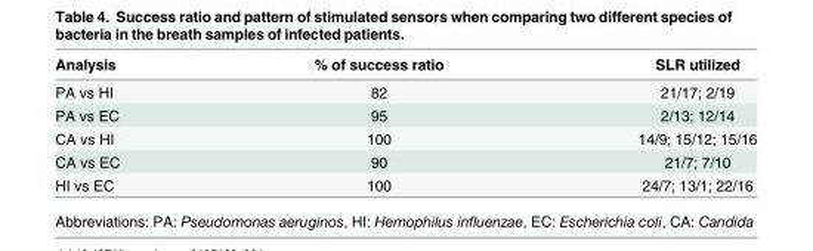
<table><thead><tr><td>Analysis</td><td>% of success ratio</td><td>SLR utilized</td></tr></thead><tbody><tr><td>PA vs HI</td><td>82</td><td>21/17; 2/19</td></tr><tr><td>PA vs EC</td><td>95</td><td>2/13; 12/14</td></tr><tr><td>CA vs HI</td><td>100</td><td>14/9; 15/12; 15/16</td></tr><tr><td>CA vs EC</td><td>90</td><td>21/7; 7/10</td></tr><tr><td>HI vs EC</td><td>100</td><td>24/7; 13/1; 22/16</td></tr></tbody></table>